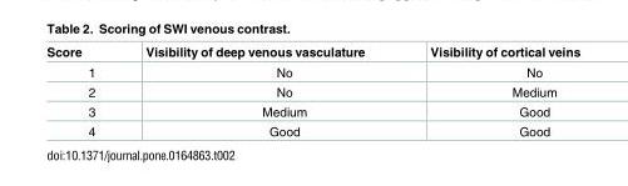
<table><thead><tr><td>Score</td><td>Visibility of deep venous vasculature</td><td>Visibility of cortical veins</td></tr></thead><tbody><tr><td>1</td><td>No</td><td>No</td></tr><tr><td>2</td><td>No</td><td>Medium</td></tr><tr><td>3</td><td>Medium</td><td>Good</td></tr><tr><td>4</td><td>Good</td><td>Good</td></tr></tbody></table>